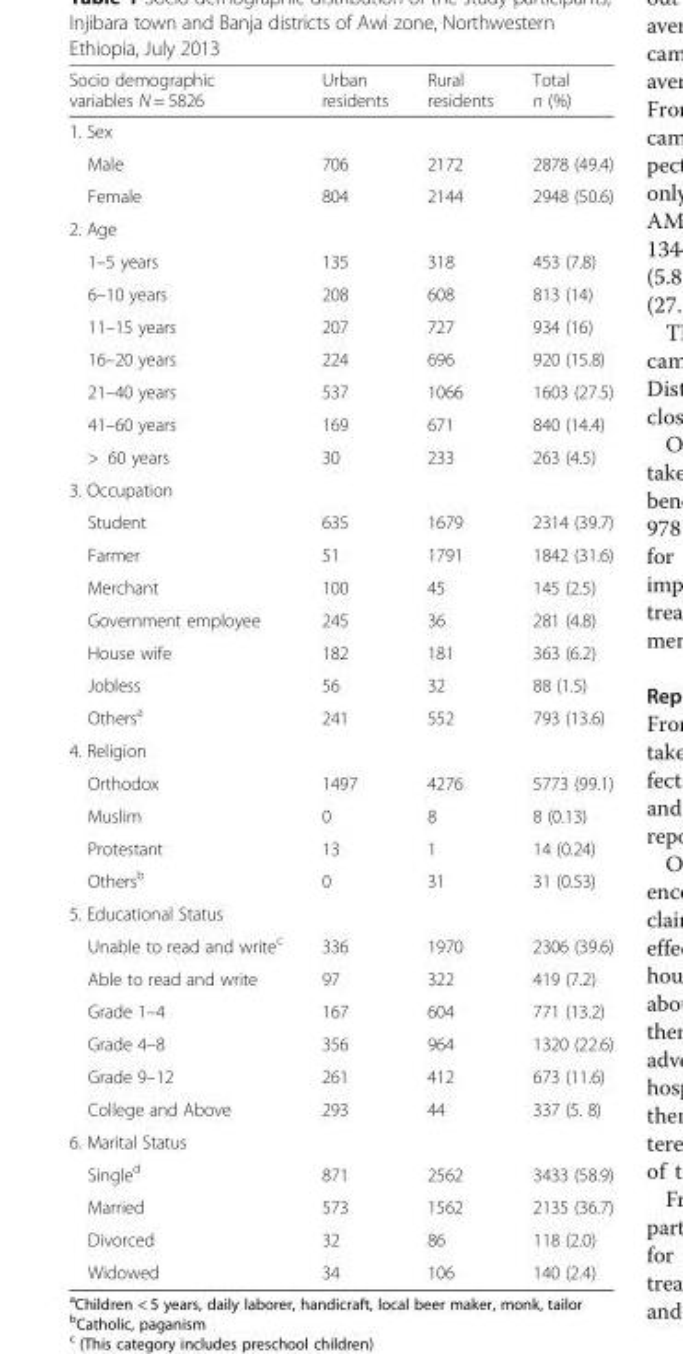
<table><thead><tr><td>Socio demographic variables N = 5826</td><td>Urban residents</td><td>Rural residents</td><td>Total n (%)</td></tr></thead><tbody><tr><td colspan="4">1. Sex</td></tr><tr><td>Male</td><td>706</td><td>2172</td><td>2878 (49.4)</td></tr><tr><td>Female</td><td>804</td><td>2144</td><td>2948 (50.6)</td></tr><tr><td colspan="4">2. Age</td></tr><tr><td>1–5 years</td><td>135</td><td>318</td><td>453 (7.8)</td></tr><tr><td>6–10 years</td><td>208</td><td>608</td><td>813 (14)</td></tr><tr><td>11–15 years</td><td>207</td><td>727</td><td>934 (16)</td></tr><tr><td>16–20 years</td><td>224</td><td>696</td><td>920 (15.8)</td></tr><tr><td>21–40 years</td><td>537</td><td>1066</td><td>1603 (27.5)</td></tr><tr><td>41–60 years</td><td>169</td><td>671</td><td>840 (14.4)</td></tr><tr><td>&gt; 60 years</td><td>30</td><td>233</td><td>263 (4.5)</td></tr><tr><td colspan="4">3. Occupation</td></tr><tr><td>Student</td><td>635</td><td>1679</td><td>2314 (39.7)</td></tr><tr><td>Farmer</td><td>51</td><td>1791</td><td>1842 (31.6)</td></tr><tr><td>Merchant</td><td>100</td><td>45</td><td>145 (2.5)</td></tr><tr><td>Government employee</td><td>245</td><td>36</td><td>281 (4.8)</td></tr><tr><td>House wife</td><td>182</td><td>181</td><td>363 (6.2)</td></tr><tr><td>Jobless</td><td>56</td><td>32</td><td>88 (1.5)</td></tr><tr><td>Others<sup>a</sup></td><td>241</td><td>552</td><td>793 (13.6)</td></tr><tr><td colspan="4">4. Religion</td></tr><tr><td>Orthodox</td><td>1497</td><td>4276</td><td>5773 (99.1)</td></tr><tr><td>Muslim</td><td>0</td><td>8</td><td>8 (0.13)</td></tr><tr><td>Protestant</td><td>13</td><td>1</td><td>14 (0.24)</td></tr><tr><td>Others<sup>b</sup></td><td>0</td><td>31</td><td>31 (0.53)</td></tr><tr><td colspan="4">5. Educational Status</td></tr><tr><td>Unable to read and write<sup>c</sup></td><td>336</td><td>1970</td><td>2306 (39.6)</td></tr><tr><td>Able to read and write</td><td>97</td><td>322</td><td>419 (7.2)</td></tr><tr><td>Grade 1–4</td><td>167</td><td>604</td><td>771 (13.2)</td></tr><tr><td>Grade 4–8</td><td>356</td><td>964</td><td>1320 (22.6)</td></tr><tr><td>Grade 9–12</td><td>261</td><td>412</td><td>673 (11.6)</td></tr><tr><td>College and Above</td><td>293</td><td>44</td><td>337 (5. 8)</td></tr><tr><td colspan="4">6. Marital Status</td></tr><tr><td>Single<sup>d</sup></td><td>871</td><td>2562</td><td>3433 (58.9)</td></tr><tr><td>Married</td><td>573</td><td>1562</td><td>2135 (36.7)</td></tr><tr><td>Divorced</td><td>32</td><td>86</td><td>118 (2.0)</td></tr><tr><td>Widowed</td><td>34</td><td>106</td><td>140 (2.4)</td></tr></tbody></table>